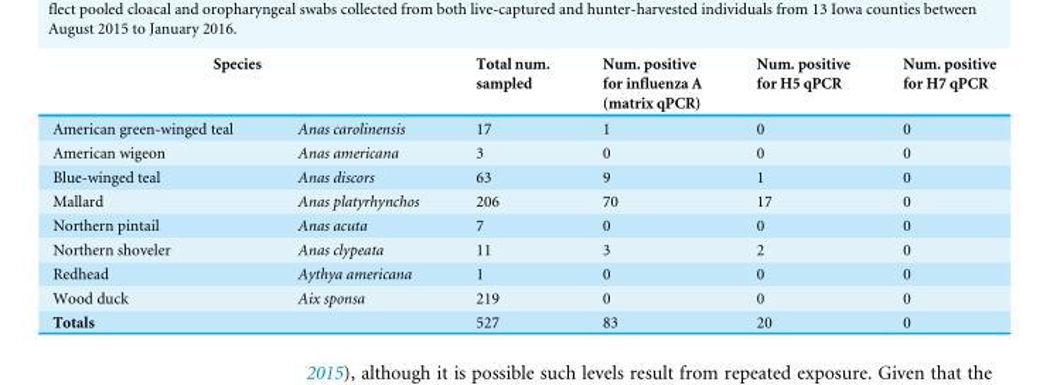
<table><thead><tr><td colspan="2">Species</td><td rowspan="2">Total num. sampled 17</td><td rowspan="2">Num. positive for influenza A (matrix qPCR) 1</td><td rowspan="2">Num. positive for H5 qPCR 0</td><td rowspan="2">Num. positive for H7 qPCR 0</td></tr><tr><td>American green-winged teal</td><td>Anas carolinensis</td></tr></thead><tbody><tr><td>American wigeon</td><td>Anas americana</td><td>3</td><td>0</td><td>0</td><td>0</td></tr><tr><td>Blue-winged teal</td><td>Anas discors</td><td>63</td><td>9</td><td>1</td><td>0</td></tr><tr><td>Mallard</td><td>Anas platyrhynchos</td><td>206</td><td>70</td><td>17</td><td>0</td></tr><tr><td>Northern pintail</td><td>Anas acuta</td><td>7</td><td>0</td><td>0</td><td>0</td></tr><tr><td>Northern shoveler</td><td>Anas clypeata</td><td>11</td><td>3</td><td>2</td><td>0</td></tr><tr><td>Redhead</td><td>Aythya americana</td><td>1</td><td>0</td><td>0</td><td>0</td></tr><tr><td>Wood duck</td><td>Aix sponsa</td><td>219</td><td>0</td><td>0</td><td>0</td></tr><tr><td>Totals</td><td></td><td>527</td><td>83</td><td>20</td><td>0</td></tr></tbody></table>